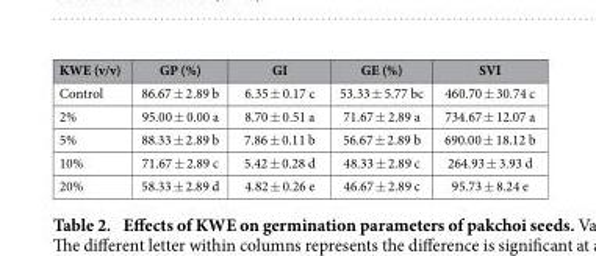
<table><thead><tr><td>KWE (v/v)</td><td>GP (%)</td><td>GI</td><td>GE (%)</td><td>SVI</td></tr></thead><tbody><tr><td>Control</td><td>86.67 ± 2.89 b</td><td>6.35 ± 0.17 c</td><td>53.33 ± 5.77 bc</td><td>460.70 ± 30.74 c</td></tr><tr><td>2%</td><td>95.00 ± 0.00 a</td><td>8.70 ± 0.51 a</td><td>71.67 ± 2.89 a</td><td>734.67 ± 12.07 a</td></tr><tr><td>5%</td><td>88.33 ± 2.89 b</td><td>7.86 ± 0.11 b</td><td>56.67 ± 2.89 b</td><td>690.00 ± 18.12 b</td></tr><tr><td>10%</td><td>71.67 ± 2.89 c</td><td>5.42 ± 0.28 d</td><td>48.33 ± 2.89 c</td><td>264.93 ± 3.93 d</td></tr><tr><td>20%</td><td>58.33 ± 2.89 d</td><td>4.82 ± 0.26 e</td><td>46.67 ± 2.89 c</td><td>95.73 ± 8.24 e</td></tr></tbody></table>